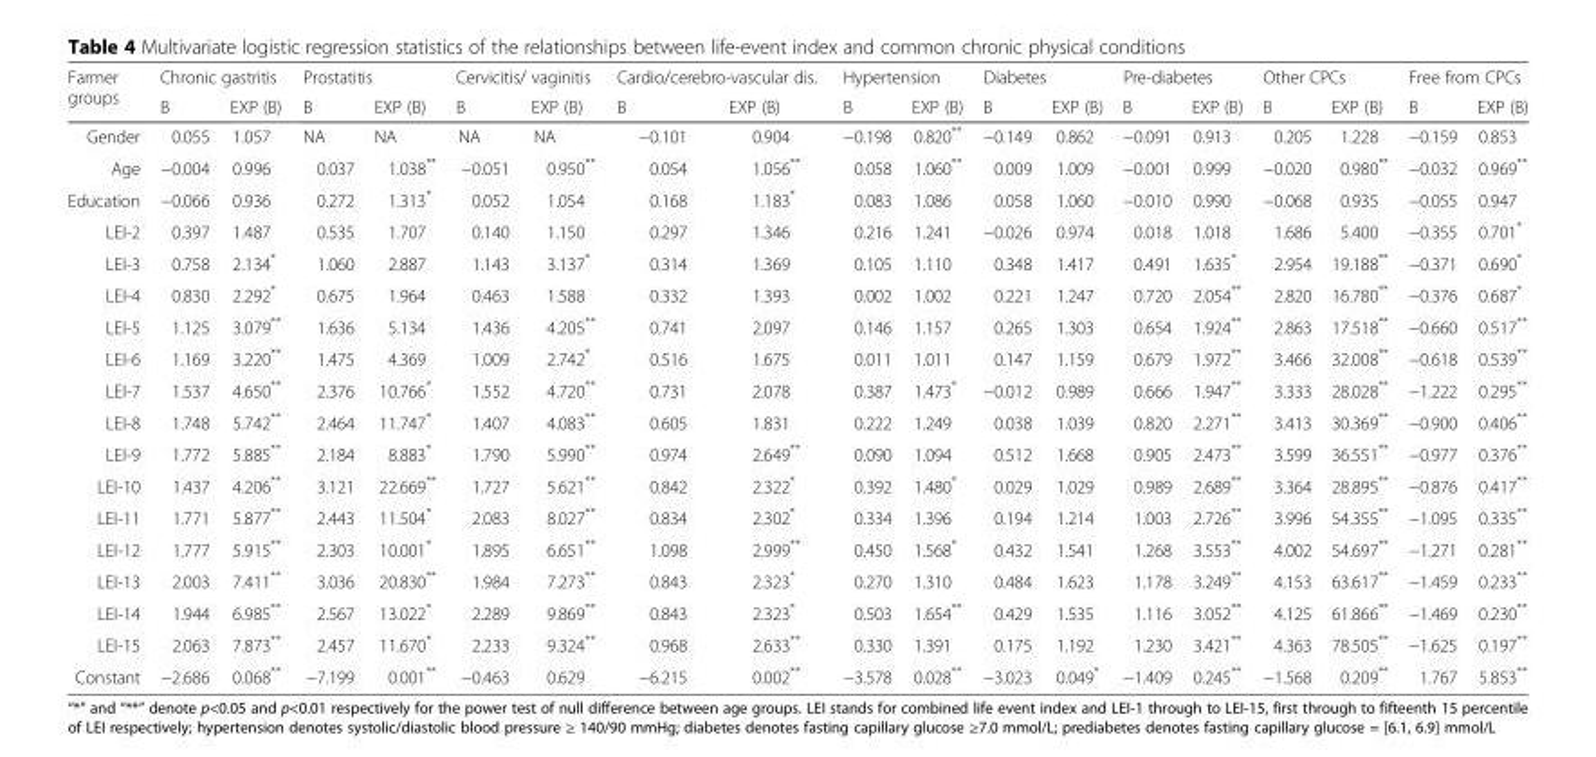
<table><thead><tr><td rowspan="2">Farmer groups</td><td colspan="2">Chronic gastritis</td><td colspan="2">Prostatitis</td><td colspan="2">Cervicitis/ vaginitis</td><td colspan="2">Cardio/cerebro-vascular dis.</td><td colspan="2">Hypertension</td><td colspan="2">Diabetes</td><td colspan="2">Pre-diabetes</td><td colspan="2">Other CPCs</td><td colspan="2">Free from CPCs</td></tr><tr><td>B</td><td>EXP (B)</td><td>B</td><td>EXP (B)</td><td>B</td><td>EXP (B)</td><td>B</td><td>EXP (B)</td><td>B</td><td>EXP (B)</td><td>B</td><td>EXP (B)</td><td>B</td><td>EXP (B)</td><td>B</td><td>EXP (B)</td><td>B</td><td>EXP (B)</td></tr></thead><tbody><tr><td>Gender</td><td>0.055</td><td>1.057</td><td>NA</td><td>NA</td><td>NA</td><td>NA</td><td>−0.101</td><td>0.904</td><td>−0.198</td><td>0.820**</td><td>−0.149</td><td>0.862</td><td>−0.091</td><td>0.913</td><td>0.205</td><td>1.228</td><td>−0.159</td><td>0.853</td></tr><tr><td>Age</td><td>−0.004</td><td>0.996</td><td>0.037</td><td>1.038**</td><td>−0.051</td><td>0.950**</td><td>0.054</td><td>1.056**</td><td>0.058</td><td>1.060**</td><td>0.009</td><td>1.009</td><td>−0.001</td><td>0.999</td><td>−0.020</td><td>0.980**</td><td>−0.032</td><td>0.969**</td></tr><tr><td>Education</td><td>−0.066</td><td>0.936</td><td>0.272</td><td>1.313*</td><td>0.052</td><td>1.054</td><td>0.168</td><td>1.183*</td><td>0.083</td><td>1.086</td><td>0.058</td><td>1.060</td><td>−0.010</td><td>0.990</td><td>−0.068</td><td>0.935</td><td>−0.055</td><td>0.947</td></tr><tr><td>LEI-2</td><td>0.397</td><td>1.487</td><td>0.535</td><td>1.707</td><td>0.140</td><td>1.150</td><td>0.297</td><td>1.346</td><td>0.216</td><td>1.241</td><td>−0.026</td><td>0.974</td><td>0.018</td><td>1.018</td><td>1.686</td><td>5.400</td><td>−0.355</td><td>0.701*</td></tr><tr><td>LEI-3</td><td>0.758</td><td>2.134*</td><td>1.060</td><td>2.887</td><td>1.143</td><td>3.137*</td><td>0.314</td><td>1.369</td><td>0.105</td><td>1.110</td><td>0.348</td><td>1.417</td><td>0.491</td><td>1.635*</td><td>2.954</td><td>19.188**</td><td>−0.371</td><td>0.690*</td></tr><tr><td>LEI-4</td><td>0.830</td><td>2.292*</td><td>0.675</td><td>1.964</td><td>0.463</td><td>1.588</td><td>0.332</td><td>1.393</td><td>0.002</td><td>1.002</td><td>0.221</td><td>1.247</td><td>0.720</td><td>2.054**</td><td>2.820</td><td>16.780**</td><td>−0.376</td><td>0.687*</td></tr><tr><td>LEI-5</td><td>1.125</td><td>3.079**</td><td>1.636</td><td>5.134</td><td>1.436</td><td>4.205**</td><td>0.741</td><td>2.097</td><td>0.146</td><td>1.157</td><td>0.265</td><td>1.303</td><td>0.654</td><td>1.924**</td><td>2.863</td><td>17.518**</td><td>−0.660</td><td>0.517**</td></tr><tr><td>LEI-6</td><td>1.169</td><td>3.220**</td><td>1.475</td><td>4.369</td><td>1.009</td><td>2.742*</td><td>0.516</td><td>1.675</td><td>0.011</td><td>1.011</td><td>0.147</td><td>1.159</td><td>0.679</td><td>1.972**</td><td>3.466</td><td>32.008**</td><td>−0.618</td><td>0.539**</td></tr><tr><td>LEI-7</td><td>1.537</td><td>4.650**</td><td>2.376</td><td>10.766*</td><td>1.552</td><td>4.720**</td><td>0.731</td><td>2.078</td><td>0.387</td><td>1.473*</td><td>−0.012</td><td>0.989</td><td>0.666</td><td>1.947**</td><td>3.333</td><td>28.028**</td><td>−1.222</td><td>0.295**</td></tr><tr><td>LEI-8</td><td>1.748</td><td>5.742**</td><td>2.464</td><td>11.747*</td><td>1.407</td><td>4.083**</td><td>0.605</td><td>1.831</td><td>0.222</td><td>1.249</td><td>0.038</td><td>1.039</td><td>0.820</td><td>2.271**</td><td>3.413</td><td>30.369**</td><td>−0.900</td><td>0.406**</td></tr><tr><td>LEI-9</td><td>1.772</td><td>5.885**</td><td>2.184</td><td>8.883*</td><td>1.790</td><td>5.990**</td><td>0.974</td><td>2.649**</td><td>0.090</td><td>1.094</td><td>0.512</td><td>1.668</td><td>0.905</td><td>2.473**</td><td>3.599</td><td>36.551**</td><td>−0.977</td><td>0.376**</td></tr><tr><td>LEI-10</td><td>1.437</td><td>4.206**</td><td>3.121</td><td>22.669**</td><td>1.727</td><td>5.621**</td><td>0.842</td><td>2.322*</td><td>0.392</td><td>1.480*</td><td>0.029</td><td>1.029</td><td>0.989</td><td>2.689**</td><td>3.364</td><td>28.895**</td><td>−0.876</td><td>0.417**</td></tr><tr><td>LEI-11</td><td>1.771</td><td>5.877**</td><td>2.443</td><td>11.504*</td><td>2.083</td><td>8.027**</td><td>0.834</td><td>2.302*</td><td>0.334</td><td>1.396</td><td>0.194</td><td>1.214</td><td>1.003</td><td>2.726**</td><td>3.996</td><td>54.355**</td><td>−1.095</td><td>0.335**</td></tr><tr><td>LEI-12</td><td>1.777</td><td>5.915**</td><td>2.303</td><td>10.001*</td><td>1.895</td><td>6.651**</td><td>1.098</td><td>2.999**</td><td>0.450</td><td>1.568*</td><td>0.432</td><td>1.541</td><td>1.268</td><td>3.553**</td><td>4.002</td><td>54.697**</td><td>−1.271</td><td>0.281**</td></tr><tr><td>LEI-13</td><td>2.003</td><td>7.411**</td><td>3.036</td><td>20.830**</td><td>1.984</td><td>7.273**</td><td>0.843</td><td>2.323*</td><td>0.270</td><td>1.310</td><td>0.484</td><td>1.623</td><td>1.178</td><td>3.249**</td><td>4.153</td><td>63.617**</td><td>−1.459</td><td>0.233**</td></tr><tr><td>LEI-14</td><td>1.944</td><td>6.985**</td><td>2.567</td><td>13.022*</td><td>2.289</td><td>9.869**</td><td>0.843</td><td>2.323*</td><td>0.503</td><td>1.654**</td><td>0.429</td><td>1.535</td><td>1.116</td><td>3.052**</td><td>4.125</td><td>61.866**</td><td>−1.469</td><td>0.230**</td></tr><tr><td>LEI-15</td><td>2.063</td><td>7.873**</td><td>2.457</td><td>11.670*</td><td>2.233</td><td>9.324**</td><td>0.968</td><td>2.633**</td><td>0.330</td><td>1.391</td><td>0.175</td><td>1.192</td><td>1.230</td><td>3.421**</td><td>4.363</td><td>78.505**</td><td>−1.625</td><td>0.197**</td></tr><tr><td>Constant</td><td>−2.686</td><td>0.068**</td><td>−7.199</td><td>0.001**</td><td>−0.463</td><td>0.629</td><td>−6.215</td><td>0.002**</td><td>−3.578</td><td>0.028**</td><td>−3.023</td><td>0.049*</td><td>−1.409</td><td>0.245**</td><td>−1.568</td><td>0.209**</td><td>1.767</td><td>5.853**</td></tr></tbody></table>